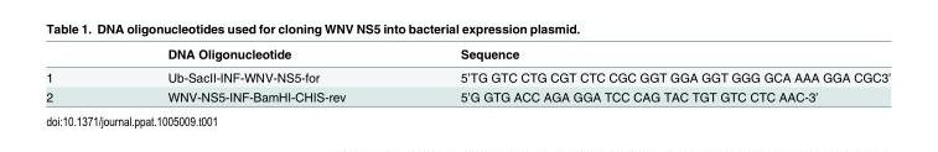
<table><thead><tr><td></td><td>DNA Oligonucleotide</td><td>Sequence</td></tr></thead><tbody><tr><td>1</td><td>Ub-SacII-INF-WNV-NS5-for</td><td>5’TG GTC CTG CGT CTC CGC GGT GGA GGT GGG GCA AAA GGA CGC3’</td></tr><tr><td>2</td><td>WNV-NS5-INF-BamHI-CHIS-rev</td><td>5’G GTG ACC AGA GGA TCC CAG TAC TGT GTC CTC AAC-3’</td></tr></tbody></table>